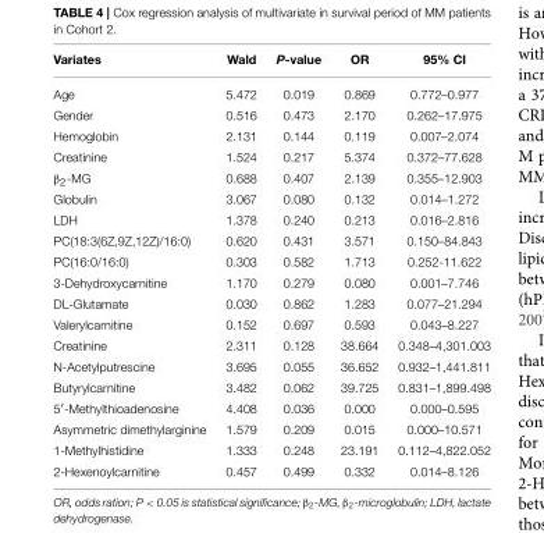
<table><thead><tr><td>Variates</td><td>Wald</td><td>P-value</td><td>OR</td><td>95% CI</td></tr></thead><tbody><tr><td>Age</td><td>5.472</td><td>0.019</td><td>0.869</td><td>0.772–0.977</td></tr><tr><td>Gender</td><td>0.516</td><td>0.473</td><td>2.170</td><td>0.262–17.975</td></tr><tr><td>Hemoglobin</td><td>2.131</td><td>0.144</td><td>0.119</td><td>0.007–2.074</td></tr><tr><td>Creatinine</td><td>1.524</td><td>0.217</td><td>5.374</td><td>0.372–77.628</td></tr><tr><td>β<sub>2</sub>-MG</td><td>0.688</td><td>0.407</td><td>2.139</td><td>0.355–12.903</td></tr><tr><td>Globulin</td><td>3.067</td><td>0.080</td><td>0.132</td><td>0.014–1.272</td></tr><tr><td>LDH</td><td>1.378</td><td>0.240</td><td>0.213</td><td>0.016–2.816</td></tr><tr><td>PC(18:3(6Z,9Z,12Z)/16:0)</td><td>0.620</td><td>0.431</td><td>3.571</td><td>0.150–84.843</td></tr><tr><td>PC(16:0/16:0)</td><td>0.303</td><td>0.582</td><td>1.713</td><td>0.252-11.622</td></tr><tr><td>3-Dehydroxycarnitine</td><td>1.170</td><td>0.279</td><td>0.080</td><td>0.001–7.746</td></tr><tr><td>DL-Glutamate</td><td>0.030</td><td>0.862</td><td>1.283</td><td>0.077–21.294</td></tr><tr><td>Valerylcarnitine</td><td>0.152</td><td>0.697</td><td>0.593</td><td>0.043–8.227</td></tr><tr><td>Creatinine</td><td>2.311</td><td>0.128</td><td>38.664</td><td>0.348–4,301.003</td></tr><tr><td>N-Acetylputrescine</td><td>3.695</td><td>0.055</td><td>36.652</td><td>0.932–1,441.811</td></tr><tr><td>Butyrylcarnitine</td><td>3.482</td><td>0.062</td><td>39.725</td><td>0.831–1,899.498</td></tr><tr><td>5′-Methylthioadenosine</td><td>4.408</td><td>0.036</td><td>0.000</td><td>0.000–0.595</td></tr><tr><td>Asymmetric dimethylarginine</td><td>1.579</td><td>0.209</td><td>0.015</td><td>0.000–10.571</td></tr><tr><td>1-Methylhistidine</td><td>1.333</td><td>0.248</td><td>23.191</td><td>0.112–4,822.052</td></tr><tr><td>2-Hexenoylcarnitine</td><td>0.457</td><td>0.499</td><td>0.332</td><td>0.014–8.126</td></tr></tbody></table>